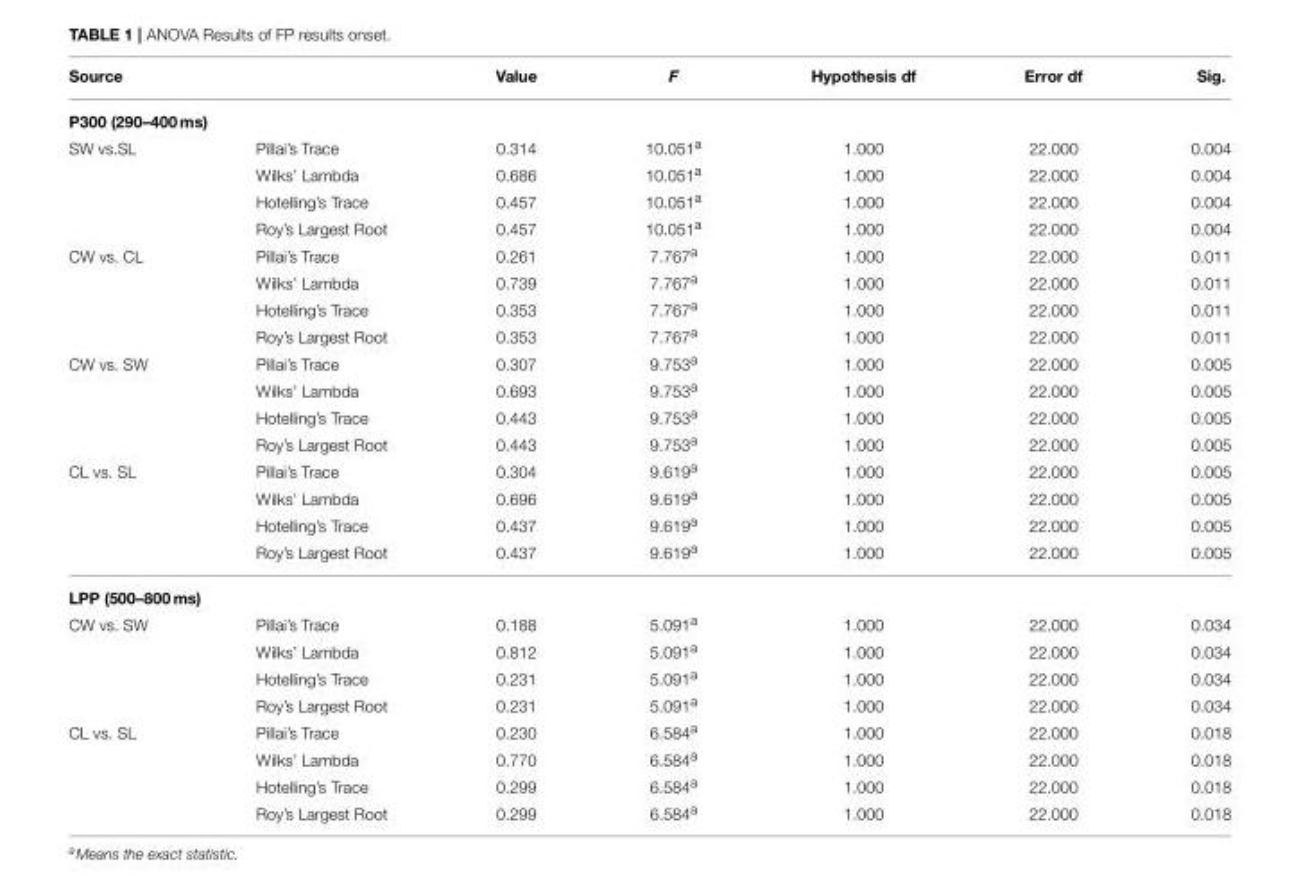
<table><thead><tr><td colspan="2">Source</td><td>Value</td><td>F</td><td>Hypothesis df</td><td>Error df</td><td>Sig.</td></tr><tr><td colspan="7">P300 (290–400 ms)</td></tr><tr><td>SW vs.SL</td><td>Pillai’s Trace</td><td>0.314</td><td>10.051<sup>a</sup></td><td>1.000</td><td>22.000</td><td>0.004</td></tr></thead><tbody><tr><td></td><td>Wilks’ Lambda</td><td>0.686</td><td>10.051<sup>a</sup></td><td>1.000</td><td>22.000</td><td>0.004</td></tr><tr><td></td><td>Hotelling’s Trace</td><td>0.457</td><td>10.051<sup>a</sup></td><td>1.000</td><td>22.000</td><td>0.004</td></tr><tr><td></td><td>Roy’s Largest Root</td><td>0.457</td><td>10.051<sup>a</sup></td><td>1.000</td><td>22.000</td><td>0.004</td></tr><tr><td rowspan="4">CW vs. CL</td><td>Pillai’s Trace</td><td>0.261</td><td>7.767<sup>a</sup></td><td>1.000</td><td>22.000</td><td>0.011</td></tr><tr><td>Wilks’ Lambda</td><td>0.739</td><td>7.767<sup>a</sup></td><td>1.000</td><td>22.000</td><td>0.011</td></tr><tr><td>Hotelling’s Trace</td><td>0.353</td><td>7.767<sup>a</sup></td><td>1.000</td><td>22.000</td><td>0.011</td></tr><tr><td>Roy’s Largest Root</td><td>0.353</td><td>7.767<sup>a</sup></td><td>1.000</td><td>22.000</td><td>0.011</td></tr><tr><td rowspan="4">CW vs. SW</td><td>Pillai’s Trace</td><td>0.307</td><td>9.753<sup>a</sup></td><td>1.000</td><td>22.000</td><td>0.005</td></tr><tr><td>Wilks’ Lambda</td><td>0.693</td><td>9.753<sup>a</sup></td><td>1.000</td><td>22.000</td><td>0.005</td></tr><tr><td>Hotelling’s Trace</td><td>0.443</td><td>9.753<sup>a</sup></td><td>1.000</td><td>22.000</td><td>0.005</td></tr><tr><td>Roy’s Largest Root</td><td>0.443</td><td>9.753<sup>a</sup></td><td>1.000</td><td>22.000</td><td>0.005</td></tr><tr><td rowspan="4">CL vs. SL</td><td>Pillai’s Trace</td><td>0.304</td><td>9.619<sup>a</sup></td><td>1.000</td><td>22.000</td><td>0.005</td></tr><tr><td>Wilks’ Lambda</td><td>0.696</td><td>9.619<sup>a</sup></td><td>1.000</td><td>22.000</td><td>0.005</td></tr><tr><td>Hotelling’s Trace</td><td>0.437</td><td>9.619<sup>a</sup></td><td>1.000</td><td>22.000</td><td>0.005</td></tr><tr><td>Roy’s Largest Root</td><td>0.437</td><td>9.619<sup>a</sup></td><td>1.000</td><td>22.000</td><td>0.005</td></tr><tr><td colspan="7">LPP (500–800 ms)</td></tr><tr><td rowspan="4">CW vs. SW</td><td>Pillai’s Trace</td><td>0.188</td><td>5.091<sup>a</sup></td><td>1.000</td><td>22.000</td><td>0.034</td></tr><tr><td>Wilks’ Lambda</td><td>0.812</td><td>5.091<sup>a</sup></td><td>1.000</td><td>22.000</td><td>0.034</td></tr><tr><td>Hotelling’s Trace</td><td>0.231</td><td>5.091<sup>a</sup></td><td>1.000</td><td>22.000</td><td>0.034</td></tr><tr><td>Roy’s Largest Root</td><td>0.231</td><td>5.091<sup>a</sup></td><td>1.000</td><td>22.000</td><td>0.034</td></tr><tr><td rowspan="4">CL vs. SL</td><td>Pillai’s Trace</td><td>0.230</td><td>6.584<sup>a</sup></td><td>1.000</td><td>22.000</td><td>0.018</td></tr><tr><td>Wilks’ Lambda</td><td>0.770</td><td>6.584<sup>a</sup></td><td>1.000</td><td>22.000</td><td>0.018</td></tr><tr><td>Hotelling’s Trace</td><td>0.299</td><td>6.584<sup>a</sup></td><td>1.000</td><td>22.000</td><td>0.018</td></tr><tr><td>Roy’s Largest Root</td><td>0.299</td><td>6.584<sup>a</sup></td><td>1.000</td><td>22.000</td><td>0.018</td></tr></tbody></table>